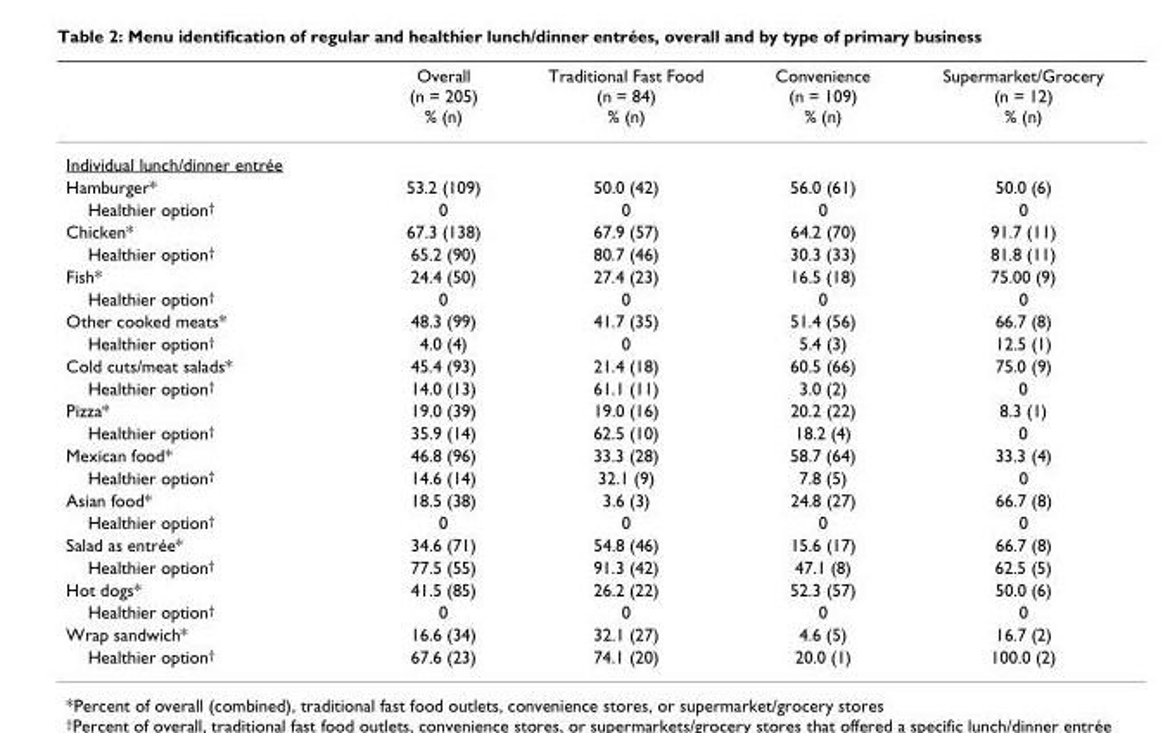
<table><thead><tr><td></td><td>Overall (n = 205) % (n)</td><td>Traditional Fast Food (n = 84) % (n)</td><td>Convenience (n = 109) % (n)</td><td>Supermarket/Grocery (n = 12) % (n)</td></tr></thead><tbody><tr><td colspan="5">Individual lunch/dinner entrée</td></tr><tr><td>Hamburger*</td><td>53.2 (109)</td><td>50.0 (42)</td><td>56.0 (61)</td><td>50.0 (6)</td></tr><tr><td>Healthier option<sup>†</sup></td><td>0</td><td>0</td><td>0</td><td>0</td></tr><tr><td>Chicken*</td><td>67.3 (138)</td><td>67.9 (57)</td><td>64.2 (70)</td><td>91.7 (11)</td></tr><tr><td>Healthier option<sup>†</sup></td><td>65.2 (90)</td><td>80.7 (46)</td><td>30.3 (33)</td><td>81.8 (11)</td></tr><tr><td>Fish*</td><td>24.4 (50)</td><td>27.4 (23)</td><td>16.5 (18)</td><td>75.00 (9)</td></tr><tr><td>Healthier option<sup>†</sup></td><td>0</td><td>0</td><td>0</td><td>0</td></tr><tr><td>Other cooked meats*</td><td>48.3 (99)</td><td>41.7 (35)</td><td>51.4 (56)</td><td>66.7 (8)</td></tr><tr><td>Healthier option<sup>†</sup></td><td>4.0 (4)</td><td>0</td><td>5.4 (3)</td><td>12.5 (1)</td></tr><tr><td>Cold cuts/meat salads*</td><td>45.4 (93)</td><td>21.4 (18)</td><td>60.5 (66)</td><td>75.0 (9)</td></tr><tr><td>Healthier option<sup>†</sup></td><td>14.0 (13)</td><td>61.1 (11)</td><td>3.0 (2)</td><td>0</td></tr><tr><td>Pizza*</td><td>19.0 (39)</td><td>19.0 (16)</td><td>20.2 (22)</td><td>8.3 (1)</td></tr><tr><td>Healthier option<sup>†</sup></td><td>35.9 (14)</td><td>62.5 (10)</td><td>18.2 (4)</td><td>0</td></tr><tr><td>Mexican food*</td><td>46.8 (96)</td><td>33.3 (28)</td><td>58.7 (64)</td><td>33.3 (4)</td></tr><tr><td>Healthier option<sup>†</sup></td><td>14.6 (14)</td><td>32.1 (9)</td><td>7.8 (5)</td><td>0</td></tr><tr><td>Asian food*</td><td>18.5 (38)</td><td>3.6 (3)</td><td>24.8 (27)</td><td>66.7 (8)</td></tr><tr><td>Healthier option<sup>†</sup></td><td>0</td><td>0</td><td>0</td><td>0</td></tr><tr><td>Salad as entrée*</td><td>34.6 (71)</td><td>54.8 (46)</td><td>15.6 (17)</td><td>66.7 (8)</td></tr><tr><td>Healthier option<sup>†</sup></td><td>77.5 (55)</td><td>91.3 (42)</td><td>47.1 (8)</td><td>62.5 (5)</td></tr><tr><td>Hot dogs*</td><td>41.5 (85)</td><td>26.2 (22)</td><td>52.3 (57)</td><td>50.0 (6)</td></tr><tr><td>Healthier option<sup>†</sup></td><td>0</td><td>0</td><td>0</td><td>0</td></tr><tr><td>Wrap sandwich*</td><td>16.6 (34)</td><td>32.1 (27)</td><td>4.6 (5)</td><td>16.7 (2)</td></tr><tr><td>Healthier option<sup>†</sup></td><td>67.6 (23)</td><td>74.1 (20)</td><td>20.0 (1)</td><td>100.0 (2)</td></tr></tbody></table>